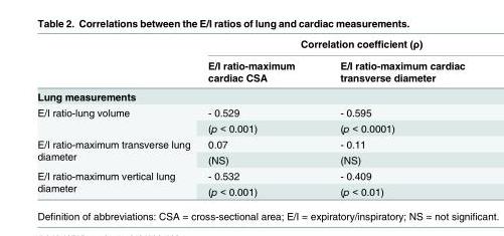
<table><thead><tr><td rowspan="2"></td><td colspan="2">Correlation coefficient (ρ)</td></tr><tr><td>E/I ratio-maximum cardiac CSA</td><td>E/I ratio-maximum cardiac transverse diameter</td></tr></thead><tbody><tr><td colspan="3">Lung measurements</td></tr><tr><td rowspan="2">E/I ratio-lung volume</td><td>- 0.529</td><td>- 0.595</td></tr><tr><td>(p &lt; 0.001)</td><td>(p &lt; 0.0001)</td></tr><tr><td rowspan="2">E/I ratio-maximum transverse lung diameter</td><td>0.07</td><td>- 0.11</td></tr><tr><td>(NS)</td><td>(NS)</td></tr><tr><td rowspan="2">E/I ratio-maximum vertical lung diameter</td><td>- 0.532</td><td>- 0.409</td></tr><tr><td>(p &lt; 0.001)</td><td>(p &lt; 0.01)</td></tr></tbody></table>